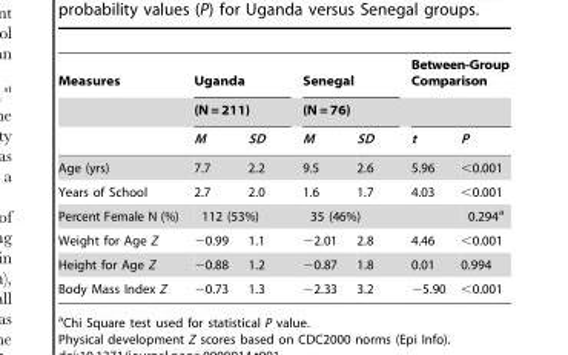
<table><thead><tr><td rowspan="3">Measures</td><td rowspan="2" colspan="2">Uganda (N = 211)</td><td rowspan="2" colspan="2">Senegal (N = 76)</td><td colspan="2">Between-Group Comparison</td></tr><tr><td rowspan="2">t</td><td rowspan="2">P</td></tr><tr><td>M</td><td>SD</td><td>M</td><td>SD</td></tr></thead><tbody><tr><td>Age (yrs)</td><td>7.7</td><td>2.2</td><td>9.5</td><td>2.6</td><td>5.96</td><td>&lt;0.001</td></tr><tr><td>Years of School</td><td>2.7</td><td>2.0</td><td>1.6</td><td>1.7</td><td>4.03</td><td>&lt;0.001</td></tr><tr><td>Percent Female N (%)</td><td colspan="2">112 (53%)</td><td colspan="2">35 (46%)</td><td></td><td>0.294<sup>a</sup></td></tr><tr><td>Weight for Age Z</td><td>−0.99</td><td>1.1</td><td>−2.01</td><td>2.8</td><td>4.46</td><td>&lt;0.001</td></tr><tr><td>Height for Age Z</td><td>−0.88</td><td>1.2</td><td>−0.87</td><td>1.8</td><td>0.01</td><td>0.994</td></tr><tr><td>Body Mass Index Z</td><td>−0.73</td><td>1.3</td><td>−2.33</td><td>3.2</td><td>−5.90</td><td>&lt;0.001</td></tr></tbody></table>